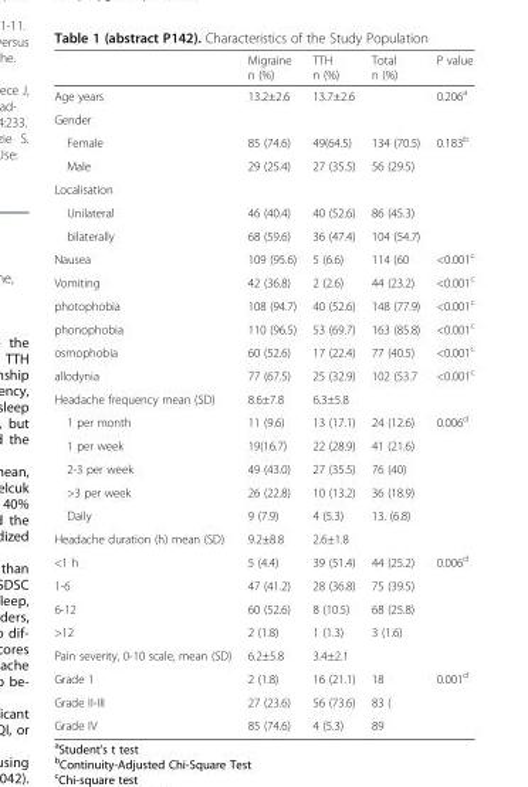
<table><thead><tr><td></td><td>Migraine n (%)</td><td>TTH n (%)</td><td>Total n (%)</td><td>P value</td></tr></thead><tbody><tr><td>Age years</td><td>13.2±2.6</td><td>13.7±2.6</td><td></td><td>0.206<sup>a</sup></td></tr><tr><td colspan="5">Gender</td></tr><tr><td>Female</td><td>85 (74.6)</td><td>49(64.5)</td><td>134 (70.5)</td><td rowspan="2">0.183<sup>b</sup></td></tr><tr><td>Male</td><td>29 (25.4)</td><td>27 (35.5)</td><td>56 (29.5)</td></tr><tr><td colspan="5">Localisation</td></tr><tr><td>Unilateral</td><td>46 (40.4)</td><td>40 (52.6)</td><td>86 (45.3)</td><td></td></tr><tr><td>bilaterally</td><td>68 (59.6)</td><td>36 (47.4)</td><td>104 (54.7)</td><td></td></tr><tr><td>Nausea</td><td>109 (95.6)</td><td>5 (6.6)</td><td>114 (60</td><td>&lt;0.001<sup>c</sup></td></tr><tr><td>Vomiting</td><td>42 (36.8)</td><td>2 (2.6)</td><td>44 (23.2)</td><td>&lt;0.001<sup>c</sup></td></tr><tr><td>photophobia</td><td>108 (94.7)</td><td>40 (52.6)</td><td>148 (77.9)</td><td>&lt;0.001<sup>c</sup></td></tr><tr><td>phonophobia</td><td>110 (96.5)</td><td>53 (69.7)</td><td>163 (85.8)</td><td>&lt;0.001<sup>c</sup></td></tr><tr><td>osmophobia</td><td>60 (52.6)</td><td>17 (22.4)</td><td>77 (40.5)</td><td>&lt;0.001<sup>c</sup></td></tr><tr><td>allodynia</td><td>77 (67.5)</td><td>25 (32.9)</td><td>102 (53.7</td><td>&lt;0.001<sup>c</sup></td></tr><tr><td>Headache frequency mean (SD)</td><td>8.6±7.8</td><td>6.3±5.8</td><td></td><td></td></tr><tr><td>1 per month</td><td>11 (9.6)</td><td>13 (17.1)</td><td>24 (12.6)</td><td rowspan="5">0.006<sup>d</sup></td></tr><tr><td>1 per week</td><td>19(16.7)</td><td>22 (28.9)</td><td>41 (21.6)</td></tr><tr><td>2-3 per week</td><td>49 (43.0)</td><td>27 (35.5)</td><td>76 (40)</td></tr><tr><td>&gt;3 per week</td><td>26 (22.8)</td><td>10 (13.2)</td><td>36 (18.9)</td></tr><tr><td>Daily</td><td>9 (7.9)</td><td>4 (5.3)</td><td>13. (6.8)</td></tr><tr><td>Headache duration (h) mean (SD)</td><td>9.2±8.8</td><td>2.6±1.8</td><td></td><td></td></tr><tr><td>&lt;1 h</td><td>5 (4.4)</td><td>39 (51.4)</td><td>44 (25.2)</td><td rowspan="4">0.006<sup>d</sup></td></tr><tr><td>1-6</td><td>47 (41.2)</td><td>28 (36.8)</td><td>75 (39.5)</td></tr><tr><td>6-12</td><td>60 (52.6)</td><td>8 (10.5)</td><td>68 (25.8)</td></tr><tr><td>&gt;12</td><td>2 (1.8)</td><td>1 (1.3)</td><td>3 (1.6)</td></tr><tr><td>Pain severity, 0-10 scale, mean (SD)</td><td>6.2±5.8</td><td>3.4±2.1</td><td></td><td></td></tr><tr><td>Grade 1</td><td>2 (1.8)</td><td>16 (21.1)</td><td>18</td><td rowspan="3">0.001<sup>d</sup></td></tr><tr><td>Grade II-III</td><td>27 (23.6)</td><td>56 (73.6)</td><td>83 (</td></tr><tr><td>Grade IV</td><td>85 (74.6)</td><td>4 (5.3)</td><td>89</td></tr></tbody></table>